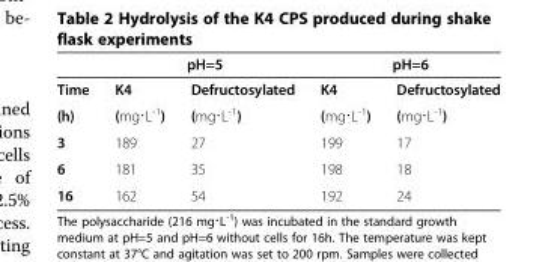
<table><thead><tr><td rowspan="2">Time</td><td colspan="2">pH=5</td><td colspan="2">pH=6</td></tr><tr><td>K4</td><td>Defructosylated</td><td>K4</td><td>Defructosylated</td></tr></thead><tbody><tr><td>(h)</td><td>(mg∙L<sup>-1</sup>)</td><td>(mg∙L<sup>-1</sup>)</td><td>(mg∙L<sup>-1</sup>)</td><td>(mg∙L<sup>-1</sup>)</td></tr><tr><td>3</td><td>189</td><td>27</td><td>199</td><td>17</td></tr><tr><td>6</td><td>181</td><td>35</td><td>198</td><td>18</td></tr><tr><td>16</td><td>162</td><td>54</td><td>192</td><td>24</td></tr></tbody></table>